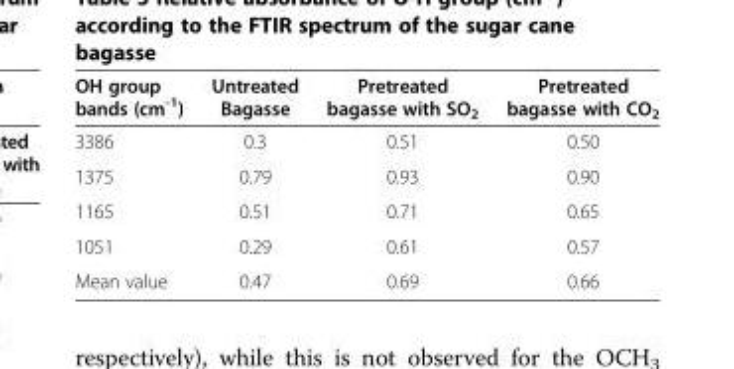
<table><thead><tr><td>OH group bands (cm<sup>-1</sup>)</td><td>Untreated Bagasse</td><td>Pretreated bagasse with SO<sub>2</sub></td><td>Pretreated bagasse with CO<sub>2</sub></td></tr></thead><tbody><tr><td>3386</td><td>0.3</td><td>0.51</td><td>0.50</td></tr><tr><td>1375</td><td>0.79</td><td>0.93</td><td>0.90</td></tr><tr><td>1165</td><td>0.51</td><td>0.71</td><td>0.65</td></tr><tr><td>1051</td><td>0.29</td><td>0.61</td><td>0.57</td></tr><tr><td>Mean value</td><td>0.47</td><td>0.69</td><td>0.66</td></tr></tbody></table>